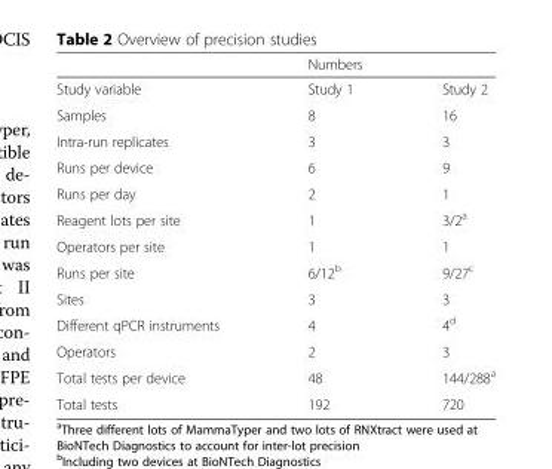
<table><thead><tr><td rowspan="2">Study variable</td><td colspan="2">Numbers</td></tr><tr><td>Study 1</td><td>Study 2</td></tr></thead><tbody><tr><td>Samples</td><td>8</td><td>16</td></tr><tr><td>Intra-run replicates</td><td>3</td><td>3</td></tr><tr><td>Runs per device</td><td>6</td><td>9</td></tr><tr><td>Runs per day</td><td>2</td><td>1</td></tr><tr><td>Reagent lots per site</td><td>1</td><td>3/2<sup>a</sup></td></tr><tr><td>Operators per site</td><td>1</td><td>1</td></tr><tr><td>Runs per site</td><td>6/12<sup>b</sup></td><td>9/27<sup>c</sup></td></tr><tr><td>Sites</td><td>3</td><td>3</td></tr><tr><td>Different qPCR instruments</td><td>4</td><td>4<sup>d</sup></td></tr><tr><td>Operators</td><td>2</td><td>3</td></tr><tr><td>Total tests per device</td><td>48</td><td>144/288<sup>a</sup></td></tr><tr><td>Total tests</td><td>192</td><td>720</td></tr></tbody></table>